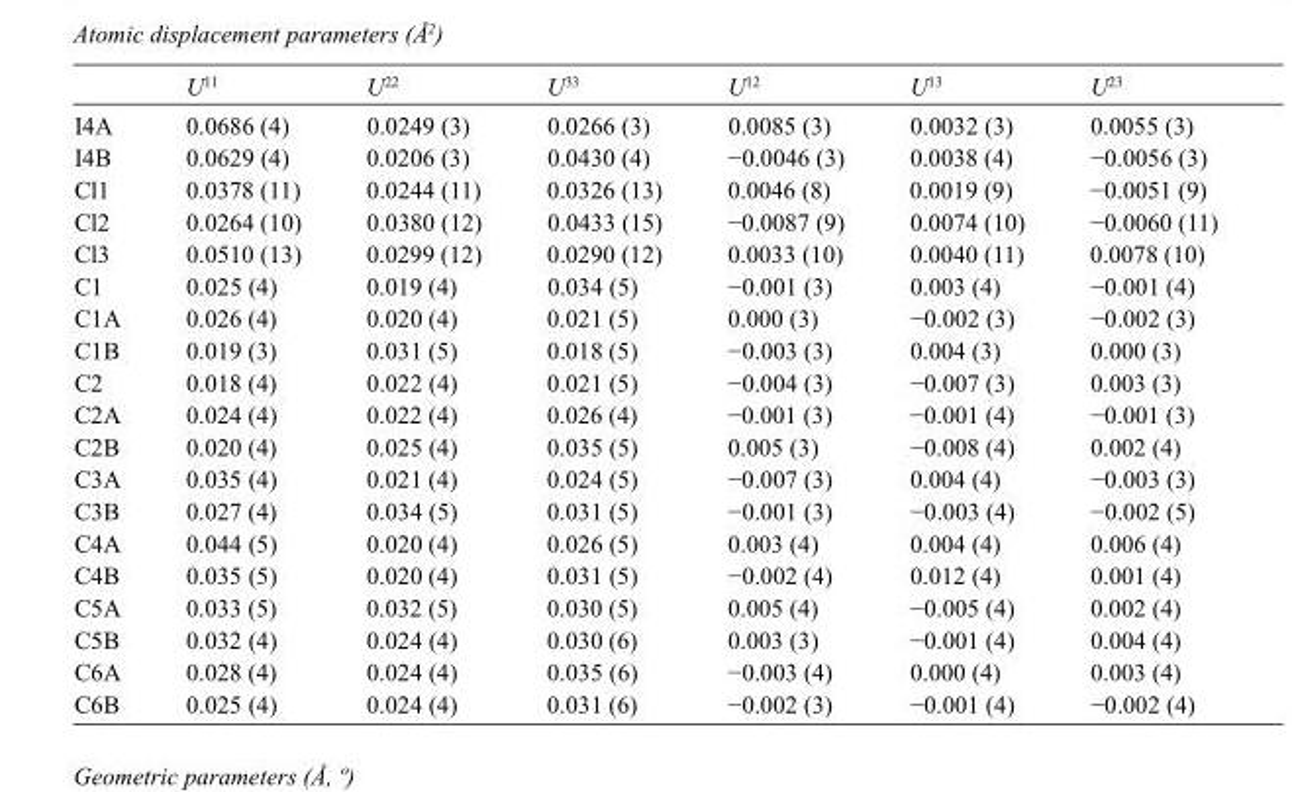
<table><thead><tr><td></td><td>U<sup>11</sup></td><td>U<sup>22</sup></td><td>U<sup>33</sup></td><td>U<sup>12</sup></td><td>U<sup>13</sup></td><td>U<sup>23</sup></td></tr></thead><tbody><tr><td>I4A</td><td>0.0686 (4)</td><td>0.0249 (3)</td><td>0.0266 (3)</td><td>0.0085 (3)</td><td>0.0032 (3)</td><td>0.0055 (3)</td></tr><tr><td>I4B</td><td>0.0629 (4)</td><td>0.0206 (3)</td><td>0.0430 (4)</td><td>−0.0046 (3)</td><td>0.0038 (4)</td><td>−0.0056 (3)</td></tr><tr><td>Cl1</td><td>0.0378 (11)</td><td>0.0244 (11)</td><td>0.0326 (13)</td><td>0.0046 (8)</td><td>0.0019 (9)</td><td>−0.0051 (9)</td></tr><tr><td>Cl2</td><td>0.0264 (10)</td><td>0.0380 (12)</td><td>0.0433 (15)</td><td>−0.0087 (9)</td><td>0.0074 (10)</td><td>−0.0060 (11)</td></tr><tr><td>Cl3</td><td>0.0510 (13)</td><td>0.0299 (12)</td><td>0.0290 (12)</td><td>0.0033 (10)</td><td>0.0040 (11)</td><td>0.0078 (10)</td></tr><tr><td>C1</td><td>0.025 (4)</td><td>0.019 (4)</td><td>0.034 (5)</td><td>−0.001 (3)</td><td>0.003 (4)</td><td>−0.001 (4)</td></tr><tr><td>C1A</td><td>0.026 (4)</td><td>0.020 (4)</td><td>0.021 (5)</td><td>0.000 (3)</td><td>−0.002 (3)</td><td>−0.002 (3)</td></tr><tr><td>C1B</td><td>0.019 (3)</td><td>0.031 (5)</td><td>0.018 (5)</td><td>−0.003 (3)</td><td>0.004 (3)</td><td>0.000 (3)</td></tr><tr><td>C2</td><td>0.018 (4)</td><td>0.022 (4)</td><td>0.021 (5)</td><td>−0.004 (3)</td><td>−0.007 (3)</td><td>0.003 (3)</td></tr><tr><td>C2A</td><td>0.024 (4)</td><td>0.022 (4)</td><td>0.026 (4)</td><td>−0.001 (3)</td><td>−0.001 (4)</td><td>−0.001 (3)</td></tr><tr><td>C2B</td><td>0.020 (4)</td><td>0.025 (4)</td><td>0.035 (5)</td><td>0.005 (3)</td><td>−0.008 (4)</td><td>0.002 (4)</td></tr><tr><td>C3A</td><td>0.035 (4)</td><td>0.021 (4)</td><td>0.024 (5)</td><td>−0.007 (3)</td><td>0.004 (4)</td><td>−0.003 (3)</td></tr><tr><td>C3B</td><td>0.027 (4)</td><td>0.034 (5)</td><td>0.031 (5)</td><td>−0.001 (3)</td><td>−0.003 (4)</td><td>−0.002 (5)</td></tr><tr><td>C4A</td><td>0.044 (5)</td><td>0.020 (4)</td><td>0.026 (5)</td><td>0.003 (4)</td><td>0.004 (4)</td><td>0.006 (4)</td></tr><tr><td>C4B</td><td>0.035 (5)</td><td>0.020 (4)</td><td>0.031 (5)</td><td>−0.002 (4)</td><td>0.012 (4)</td><td>0.001 (4)</td></tr><tr><td>C5A</td><td>0.033 (5)</td><td>0.032 (5)</td><td>0.030 (5)</td><td>0.005 (4)</td><td>−0.005 (4)</td><td>0.002 (4)</td></tr><tr><td>C5B</td><td>0.032 (4)</td><td>0.024 (4)</td><td>0.030 (6)</td><td>0.003 (3)</td><td>−0.001 (4)</td><td>0.004 (4)</td></tr><tr><td>C6A</td><td>0.028 (4)</td><td>0.024 (4)</td><td>0.035 (6)</td><td>−0.003 (4)</td><td>0.000 (4)</td><td>0.003 (4)</td></tr><tr><td>C6B</td><td>0.025 (4)</td><td>0.024 (4)</td><td>0.031 (6)</td><td>−0.002 (3)</td><td>−0.001 (4)</td><td>−0.002 (4)</td></tr></tbody></table>